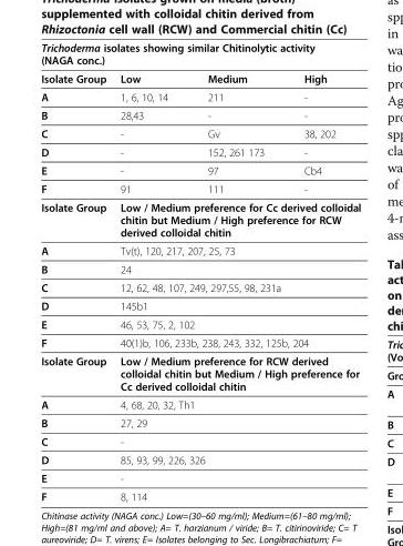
<table><thead><tr><td colspan="4">Trichoderma isolates showing similar Chitinolytic activity (NAGA conc.)</td></tr><tr><td>Isolate Group</td><td>Low</td><td>Medium</td><td>High</td></tr></thead><tbody><tr><td>A</td><td>1, 6, 10, 14</td><td>211</td><td>-</td></tr><tr><td>B</td><td>28,43</td><td>-</td><td>-</td></tr><tr><td>C</td><td>-</td><td>Gv</td><td>38, 202</td></tr><tr><td>D</td><td>-</td><td>152, 261 173</td><td>-</td></tr><tr><td>E</td><td>-</td><td>97</td><td>Cb4</td></tr><tr><td>F</td><td>91</td><td>111</td><td>-</td></tr><tr><td>Isolate Group</td><td colspan="3">Low / Medium preference for Cc derived colloidal chitin but Medium / High preference for RCW derived colloidal chitin</td></tr><tr><td>A</td><td colspan="3">Tv(t), 120, 217, 207, 25, 73</td></tr><tr><td>B</td><td colspan="3">24</td></tr><tr><td>C</td><td colspan="3">12, 62, 48, 107, 249, 297,55, 98, 231a</td></tr><tr><td>D</td><td colspan="3">145b1</td></tr><tr><td>E</td><td colspan="3">46, 53, 75, 2, 102</td></tr><tr><td>F</td><td colspan="3">40(1)b, 106, 233b, 238, 243, 332, 125b, 204</td></tr><tr><td>Isolate Group</td><td colspan="3">Low / Medium preference for RCW derived colloidal chitin but Medium / High preference for Cc derived colloidal chitin</td></tr><tr><td>A</td><td colspan="3">4, 68, 20, 32, Th1</td></tr><tr><td>B</td><td colspan="3">27, 29</td></tr><tr><td>C</td><td colspan="3">-</td></tr><tr><td>D</td><td colspan="3">85, 93, 99, 226, 326</td></tr><tr><td>E</td><td colspan="3">-</td></tr><tr><td>F</td><td colspan="3">8, 114</td></tr></tbody></table>